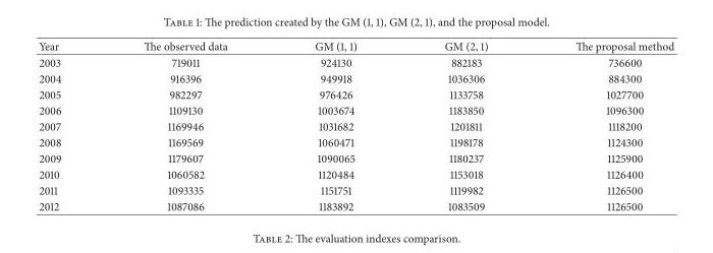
<table><thead><tr><td>Year</td><td>The observed data</td><td>GM (1, 1)</td><td>GM (2, 1)</td><td>The proposal method</td></tr></thead><tbody><tr><td>2003</td><td>719011</td><td>924130</td><td>882183</td><td>736600</td></tr><tr><td>2004</td><td>916396</td><td>949918</td><td>1036306</td><td>884300</td></tr><tr><td>2005</td><td>982297</td><td>976426</td><td>1133758</td><td>1027700</td></tr><tr><td>2006</td><td>1109130</td><td>1003674</td><td>1183850</td><td>1096300</td></tr><tr><td>2007</td><td>1169946</td><td>1031682</td><td>1201811</td><td>1118200</td></tr><tr><td>2008</td><td>1169569</td><td>1060471</td><td>1198178</td><td>1124300</td></tr><tr><td>2009</td><td>1179607</td><td>1090065</td><td>1180237</td><td>1125900</td></tr><tr><td>2010</td><td>1060582</td><td>1120484</td><td>1153018</td><td>1126400</td></tr><tr><td>2011</td><td>1093335</td><td>1151751</td><td>1119982</td><td>1126500</td></tr><tr><td>2012</td><td>1087086</td><td>1183892</td><td>1083509</td><td>1126500</td></tr></tbody></table>